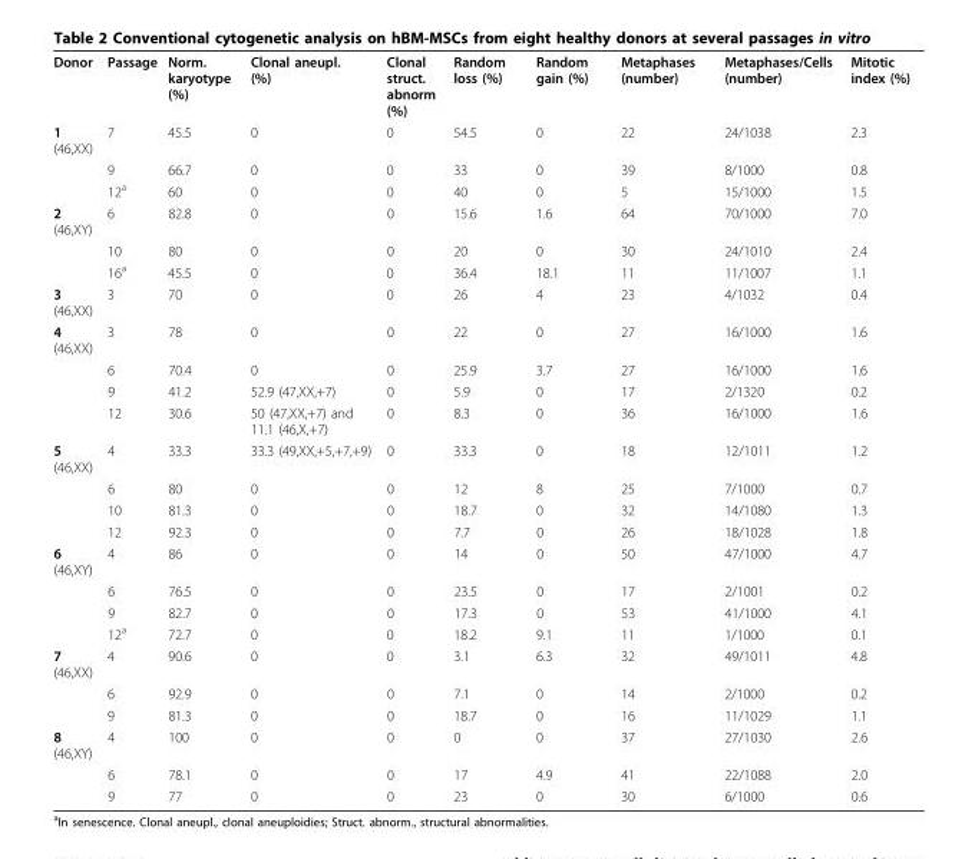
<table><tbody><tr><td>Donor</td><td>Passage</td><td>Norm. karyotype (%)</td><td>Clonal aneupl. (%)</td><td>Clonal struct. abnorm (%)</td><td>Random loss (%)</td><td>Random gain (%)</td><td>Metaphases (number)</td><td>Metaphases/Cells (number)</td><td>Mitotic index (%)</td></tr><tr><td rowspan="3">1 (46,XX)</td><td>7</td><td>45.5</td><td>0</td><td>0</td><td>54.5</td><td>0</td><td>22</td><td>24/1038</td><td>2.3</td></tr><tr><td>9</td><td>66.7</td><td>0</td><td>0</td><td>33</td><td>0</td><td>39</td><td>8/1000</td><td>0.8</td></tr><tr><td>12<sup>a</sup></td><td>60</td><td>0</td><td>0</td><td>40</td><td>0</td><td>5</td><td>15/1000</td><td>1.5</td></tr><tr><td rowspan="3">2 (46,XY)</td><td>6</td><td>82.8</td><td>0</td><td>0</td><td>15.6</td><td>1.6</td><td>64</td><td>70/1000</td><td>7.0</td></tr><tr><td>10</td><td>80</td><td>0</td><td>0</td><td>20</td><td>0</td><td>30</td><td>24/1010</td><td>2.4</td></tr><tr><td>16<sup>a</sup></td><td>45.5</td><td>0</td><td>0</td><td>36.4</td><td>18.1</td><td>11</td><td>11/1007</td><td>1.1</td></tr><tr><td>3 (46,XX)</td><td>3</td><td>70</td><td>0</td><td>0</td><td>26</td><td>4</td><td>23</td><td>4/1032</td><td>0.4</td></tr><tr><td rowspan="4">4 (46,XX)</td><td>3</td><td>78</td><td>0</td><td>0</td><td>22</td><td>0</td><td>27</td><td>16/1000</td><td>1.6</td></tr><tr><td>6</td><td>70.4</td><td>0</td><td>0</td><td>25.9</td><td>3.7</td><td>27</td><td>16/1000</td><td>1.6</td></tr><tr><td>9</td><td>41.2</td><td>52.9 (47,XX,+7)</td><td>0</td><td>5.9</td><td>0</td><td>17</td><td>2/1320</td><td>0.2</td></tr><tr><td>12</td><td>30.6</td><td>50 (47,XX,+7) and 11.1 (46,X,+7)</td><td>0</td><td>8.3</td><td>0</td><td>36</td><td>16/1000</td><td>1.6</td></tr><tr><td rowspan="4">5 (46,XX)</td><td>4</td><td>33.3</td><td>33.3 (49,XX,+5,+7,+9)</td><td>0</td><td>33.3</td><td>0</td><td>18</td><td>12/1011</td><td>1.2</td></tr><tr><td>6</td><td>80</td><td>0</td><td>0</td><td>12</td><td>8</td><td>25</td><td>7/1000</td><td>0.7</td></tr><tr><td>10</td><td>81.3</td><td>0</td><td>0</td><td>18.7</td><td>0</td><td>32</td><td>14/1080</td><td>1.3</td></tr><tr><td>12</td><td>92.3</td><td>0</td><td>0</td><td>7.7</td><td>0</td><td>26</td><td>18/1028</td><td>1.8</td></tr><tr><td rowspan="4">6 (46,XY)</td><td>4</td><td>86</td><td>0</td><td>0</td><td>14</td><td>0</td><td>50</td><td>47/1000</td><td>4.7</td></tr><tr><td>6</td><td>76.5</td><td>0</td><td>0</td><td>23.5</td><td>0</td><td>17</td><td>2/1001</td><td>0.2</td></tr><tr><td>9</td><td>82.7</td><td>0</td><td>0</td><td>17.3</td><td>0</td><td>53</td><td>41/1000</td><td>4.1</td></tr><tr><td>12<sup>a</sup></td><td>72.7</td><td>0</td><td>0</td><td>18.2</td><td>9.1</td><td>11</td><td>1/1000</td><td>0.1</td></tr><tr><td rowspan="3">7 (46,XX)</td><td>4</td><td>90.6</td><td>0</td><td>0</td><td>3.1</td><td>6.3</td><td>32</td><td>49/1011</td><td>4.8</td></tr><tr><td>6</td><td>92.9</td><td>0</td><td>0</td><td>7.1</td><td>0</td><td>14</td><td>2/1000</td><td>0.2</td></tr><tr><td>9</td><td>81.3</td><td>0</td><td>0</td><td>18.7</td><td>0</td><td>16</td><td>11/1029</td><td>1.1</td></tr><tr><td rowspan="3">8 (46,XY)</td><td>4</td><td>100</td><td>0</td><td>0</td><td>0</td><td>0</td><td>37</td><td>27/1030</td><td>2.6</td></tr><tr><td>6</td><td>78.1</td><td>0</td><td>0</td><td>17</td><td>4.9</td><td>41</td><td>22/1088</td><td>2.0</td></tr><tr><td>9</td><td>77</td><td>0</td><td>0</td><td>23</td><td>0</td><td>30</td><td>6/1000</td><td>0.6</td></tr></tbody></table>